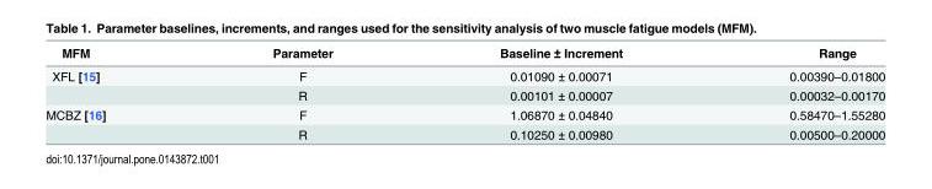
<table><thead><tr><td>MFM</td><td>Parameter</td><td>Baseline ± Increment</td><td>Range</td></tr></thead><tbody><tr><td rowspan="2">XFL [15]</td><td>F</td><td>0.01090 ± 0.00071</td><td>0.00390–0.01800</td></tr><tr><td>R</td><td>0.00101 ± 0.00007</td><td>0.00032–0.00170</td></tr><tr><td rowspan="2">MCBZ [16]</td><td>F</td><td>1.06870 ± 0.04840</td><td>0.58470–1.55280</td></tr><tr><td>R</td><td>0.10250 ± 0.00980</td><td>0.00500–0.20000</td></tr></tbody></table>